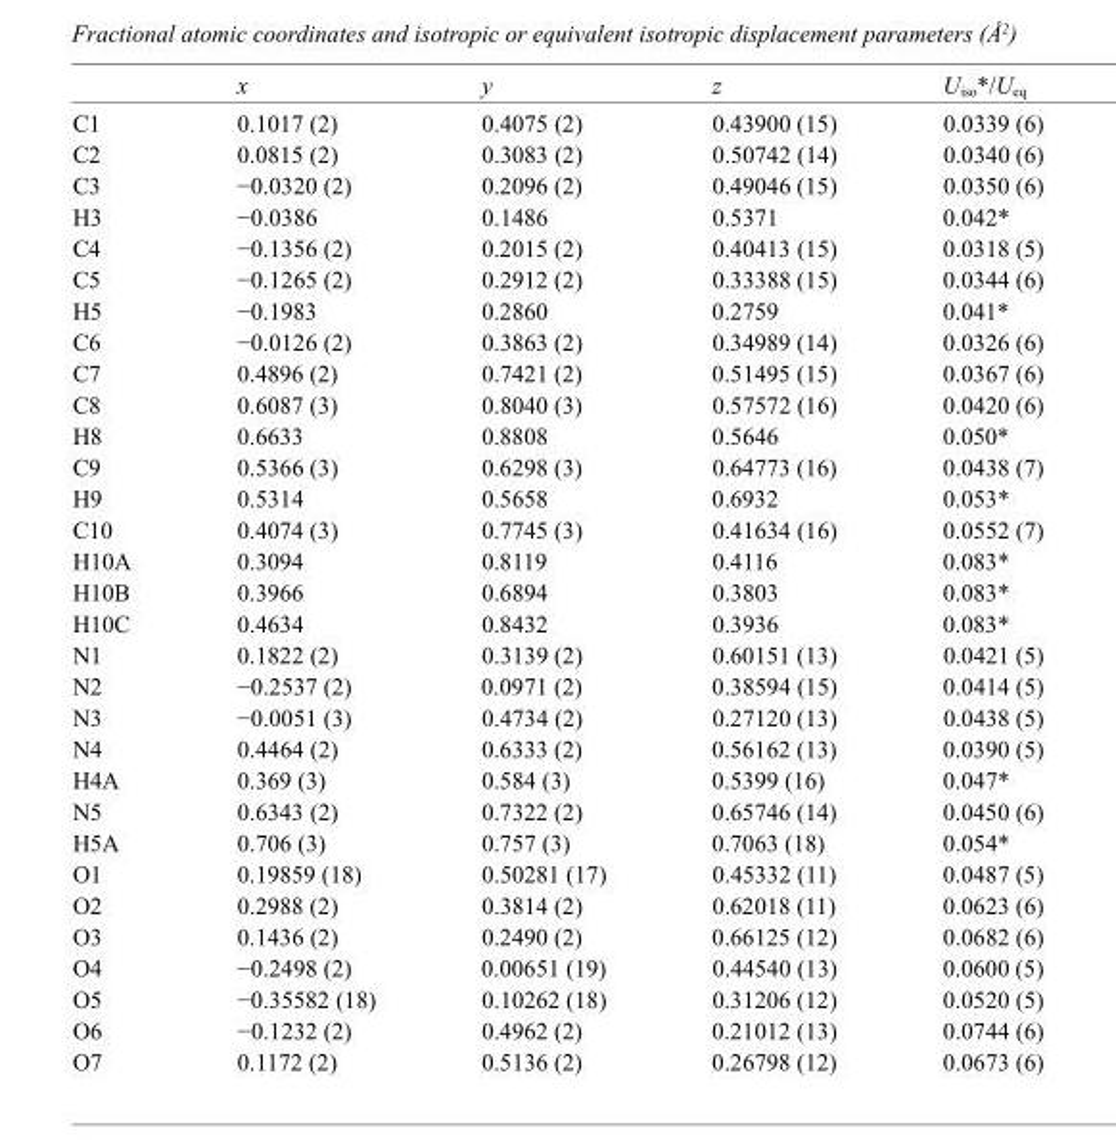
<table><thead><tr><td></td><td>x</td><td>y</td><td>z</td><td>U<sub>iso</sub>*/U<sub>eq</sub></td></tr></thead><tbody><tr><td>C1</td><td>0.1017 (2)</td><td>0.4075 (2)</td><td>0.43900 (15)</td><td>0.0339 (6)</td></tr><tr><td>C2</td><td>0.0815 (2)</td><td>0.3083 (2)</td><td>0.50742 (14)</td><td>0.0340 (6)</td></tr><tr><td>C3</td><td>−0.0320 (2)</td><td>0.2096 (2)</td><td>0.49046 (15)</td><td>0.0350 (6)</td></tr><tr><td>H3</td><td>−0.0386</td><td>0.1486</td><td>0.5371</td><td>0.042*</td></tr><tr><td>C4</td><td>−0.1356 (2)</td><td>0.2015 (2)</td><td>0.40413 (15)</td><td>0.0318 (5)</td></tr><tr><td>C5</td><td>−0.1265 (2)</td><td>0.2912 (2)</td><td>0.33388 (15)</td><td>0.0344 (6)</td></tr><tr><td>H5</td><td>−0.1983</td><td>0.2860</td><td>0.2759</td><td>0.041*</td></tr><tr><td>C6</td><td>−0.0126 (2)</td><td>0.3863 (2)</td><td>0.34989 (14)</td><td>0.0326 (6)</td></tr><tr><td>C7</td><td>0.4896 (2)</td><td>0.7421 (2)</td><td>0.51495 (15)</td><td>0.0367 (6)</td></tr><tr><td>C8</td><td>0.6087 (3)</td><td>0.8040 (3)</td><td>0.57572 (16)</td><td>0.0420 (6)</td></tr><tr><td>H8</td><td>0.6633</td><td>0.8808</td><td>0.5646</td><td>0.050*</td></tr><tr><td>C9</td><td>0.5366 (3)</td><td>0.6298 (3)</td><td>0.64773 (16)</td><td>0.0438 (7)</td></tr><tr><td>H9</td><td>0.5314</td><td>0.5658</td><td>0.6932</td><td>0.053*</td></tr><tr><td>C10</td><td>0.4074 (3)</td><td>0.7745 (3)</td><td>0.41634 (16)</td><td>0.0552 (7)</td></tr><tr><td>H10A</td><td>0.3094</td><td>0.8119</td><td>0.4116</td><td>0.083*</td></tr><tr><td>H10B</td><td>0.3966</td><td>0.6894</td><td>0.3803</td><td>0.083*</td></tr><tr><td>H10C</td><td>0.4634</td><td>0.8432</td><td>0.3936</td><td>0.083*</td></tr><tr><td>N1</td><td>0.1822 (2)</td><td>0.3139 (2)</td><td>0.60151 (13)</td><td>0.0421 (5)</td></tr><tr><td>N2</td><td>−0.2537 (2)</td><td>0.0971 (2)</td><td>0.38594 (15)</td><td>0.0414 (5)</td></tr><tr><td>N3</td><td>−0.0051 (3)</td><td>0.4734 (2)</td><td>0.27120 (13)</td><td>0.0438 (5)</td></tr><tr><td>N4</td><td>0.4464 (2)</td><td>0.6333 (2)</td><td>0.56162 (13)</td><td>0.0390 (5)</td></tr><tr><td>H4A</td><td>0.369 (3)</td><td>0.584 (3)</td><td>0.5399 (16)</td><td>0.047*</td></tr><tr><td>N5</td><td>0.6343 (2)</td><td>0.7322 (2)</td><td>0.65746 (14)</td><td>0.0450 (6)</td></tr><tr><td>H5A</td><td>0.706 (3)</td><td>0.757 (3)</td><td>0.7063 (18)</td><td>0.054*</td></tr><tr><td>O1</td><td>0.19859 (18)</td><td>0.50281 (17)</td><td>0.45332 (11)</td><td>0.0487 (5)</td></tr><tr><td>O2</td><td>0.2988 (2)</td><td>0.3814 (2)</td><td>0.62018 (11)</td><td>0.0623 (6)</td></tr><tr><td>O3</td><td>0.1436 (2)</td><td>0.2490 (2)</td><td>0.66125 (12)</td><td>0.0682 (6)</td></tr><tr><td>O4</td><td>−0.2498 (2)</td><td>0.00651 (19)</td><td>0.44540 (13)</td><td>0.0600 (5)</td></tr><tr><td>O5</td><td>−0.35582 (18)</td><td>0.10262 (18)</td><td>0.31206 (12)</td><td>0.0520 (5)</td></tr><tr><td>O6</td><td>−0.1232 (2)</td><td>0.4962 (2)</td><td>0.21012 (13)</td><td>0.0744 (6)</td></tr><tr><td>O7</td><td>0.1172 (2)</td><td>0.5136 (2)</td><td>0.26798 (12)</td><td>0.0673 (6)</td></tr></tbody></table>